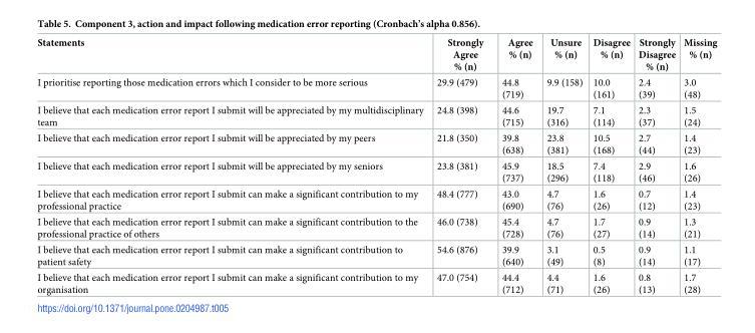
<table><thead><tr><td>Statements</td><td>Strongly Agree % (n)</td><td>Agree % (n)</td><td>Unsure % (n)</td><td>Disagree % (n)</td><td>Strongly Disagree % (n)</td><td>Missing % (n)</td></tr></thead><tbody><tr><td>I prioritise reporting those medication errors which I consider to be more serious</td><td>29.9 (479)</td><td>44.8 (719)</td><td>9.9 (158)</td><td>10.0 (161)</td><td>2.4 (39)</td><td>3.0 (48)</td></tr><tr><td>I believe that each medication error report I submit will be appreciated by my multidisciplinary team</td><td>24.8 (398)</td><td>44.6 (715)</td><td>19.7 (316)</td><td>7.1 (114)</td><td>2.3 (37)</td><td>1.5 (24)</td></tr><tr><td>I believe that each medication error report I submit will be appreciated by my peers</td><td>21.8 (350)</td><td>39.8 (638)</td><td>23.8 (381)</td><td>10.5 (168)</td><td>2.7 (44)</td><td>1.4 (23)</td></tr><tr><td>I believe that each medication error report I submit will be appreciated by my seniors</td><td>23.8 (381)</td><td>45.9 (737)</td><td>18.5 (296)</td><td>7.4 (118)</td><td>2.9 (46)</td><td>1.6 (26)</td></tr><tr><td>I believe that each medication error report I submit can make a significant contribution to my professional practice</td><td>48.4 (777)</td><td>43.0 (690)</td><td>4.7 (76)</td><td>1.6 (26)</td><td>0.7 (12)</td><td>1.4 (23)</td></tr><tr><td>I believe that each medication error report I submit can make a significant contribution to the professional practice of others</td><td>46.0 (738)</td><td>45.4 (728)</td><td>4.7 (76)</td><td>1.7 (27)</td><td>0.9 (14)</td><td>1.3 (21)</td></tr><tr><td>I believe that each medication error report I submit can make a significant contribution to patient safety</td><td>54.6 (876)</td><td>39.9 (640)</td><td>3.1 (49)</td><td>0.5 (8)</td><td>0.9 (14)</td><td>1.1 (17)</td></tr><tr><td>I believe that each medication error report I submit can make a significant contribution to my organisation</td><td>47.0 (754)</td><td>44.4 (712)</td><td>4.4 (71)</td><td>1.6 (26)</td><td>0.8 (13)</td><td>1.7 (28)</td></tr></tbody></table>